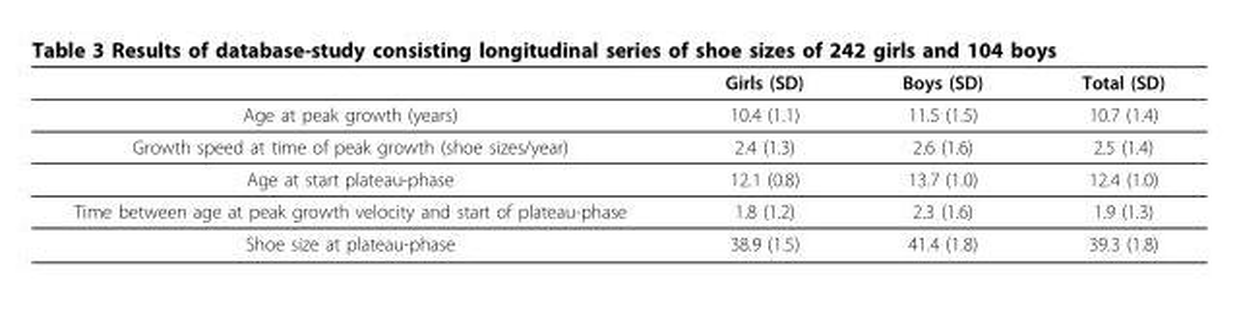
<table><thead><tr><td></td><td>Girls (SD)</td><td>Boys (SD)</td><td>Total (SD)</td></tr></thead><tbody><tr><td>Age at peak growth (years)</td><td>10.4 (1.1)</td><td>11.5 (1.5)</td><td>10.7 (1.4)</td></tr><tr><td>Growth speed at time of peak growth (shoe sizes/year)</td><td>2.4 (1.3)</td><td>2.6 (1.6)</td><td>2.5 (1.4)</td></tr><tr><td>Age at start plateau-phase</td><td>12.1 (0.8)</td><td>13.7 (1.0)</td><td>12.4 (1.0)</td></tr><tr><td>Time between age at peak growth velocity and start of plateau-phase</td><td>1.8 (1.2)</td><td>2.3 (1.6)</td><td>1.9 (1.3)</td></tr><tr><td>Shoe size at plateau-phase</td><td>38.9 (1.5)</td><td>41.4 (1.8)</td><td>39.3 (1.8)</td></tr></tbody></table>